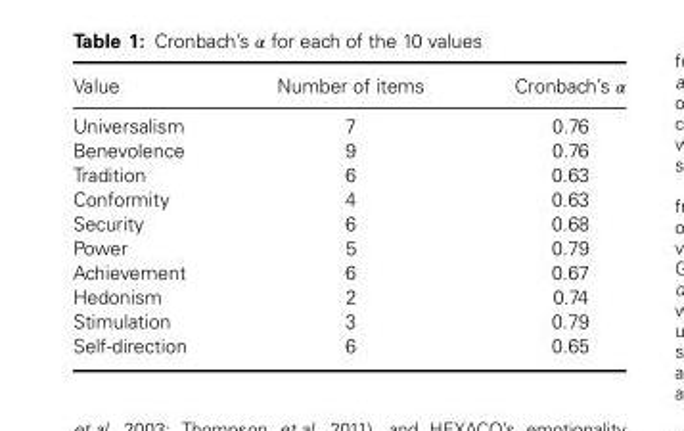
<table><thead><tr><td>Value</td><td>Number of items</td><td>Cronbach’s</td></tr></thead><tbody><tr><td>Universalism</td><td>7</td><td>0.76</td></tr><tr><td>Benevolence</td><td>9</td><td>0.76</td></tr><tr><td>Tradition</td><td>6</td><td>0.63</td></tr><tr><td>Conformity</td><td>4</td><td>0.63</td></tr><tr><td>Security</td><td>6</td><td>0.68</td></tr><tr><td>Power</td><td>5</td><td>0.79</td></tr><tr><td>Achievement</td><td>6</td><td>0.67</td></tr><tr><td>Hedonism</td><td>2</td><td>0.74</td></tr><tr><td>Stimulation</td><td>3</td><td>0.79</td></tr><tr><td>Self-direction</td><td>6</td><td>0.65</td></tr></tbody></table>